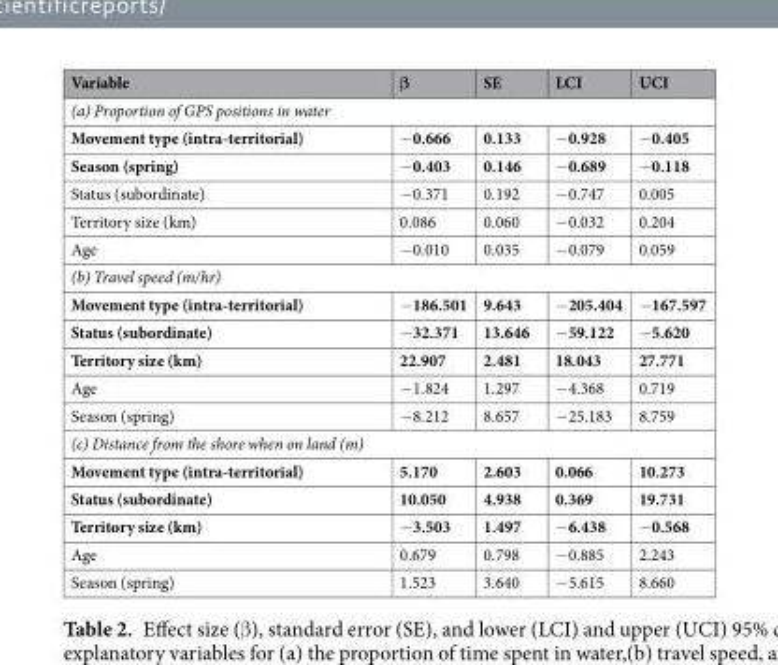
<table><thead><tr><td>Variable</td><td>β</td><td>SE</td><td>LCI</td><td>UCI</td></tr></thead><tbody><tr><td colspan="5">(a) Proportion of GPS positions in water</td></tr><tr><td>Movement type (intra-territorial)</td><td>−0.666</td><td>0.133</td><td>−0.928</td><td>−0.405</td></tr><tr><td>Season (spring)</td><td>−0.403</td><td>0.146</td><td>−0.689</td><td>−0.118</td></tr><tr><td>Status (subordinate)</td><td>−0.371</td><td>0.192</td><td>−0.747</td><td>0.005</td></tr><tr><td>Territory size (km)</td><td>0.086</td><td>0.060</td><td>−0.032</td><td>0.204</td></tr><tr><td>Age</td><td>−0.010</td><td>0.035</td><td>−0.079</td><td>0.059</td></tr><tr><td colspan="5">(b) Travel speed (m/hr)</td></tr><tr><td>Movement type (intra-territorial)</td><td>−186.501</td><td>9.643</td><td>−205.404</td><td>−167.597</td></tr><tr><td>Status (subordinate)</td><td>−32.371</td><td>13.646</td><td>−59.122</td><td>−5.620</td></tr><tr><td>Territory size (km)</td><td>22.907</td><td>2.481</td><td>18.043</td><td>27.771</td></tr><tr><td>Age</td><td>−1.824</td><td>1.297</td><td>−4.368</td><td>0.719</td></tr><tr><td>Season (spring)</td><td>−8.212</td><td>8.657</td><td>−25.183</td><td>8.759</td></tr><tr><td colspan="5">(c) Distance from the shore when on land (m)</td></tr><tr><td>Movement type (intra-territorial)</td><td>5.170</td><td>2.603</td><td>0.066</td><td>10.273</td></tr><tr><td>Status (subordinate)</td><td>10.050</td><td>4.938</td><td>0.369</td><td>19.731</td></tr><tr><td>Territory size (km)</td><td>−3.503</td><td>1.497</td><td>−6.438</td><td>−0.568</td></tr><tr><td>Age</td><td>0.679</td><td>0.798</td><td>−0.885</td><td>2.243</td></tr><tr><td>Season (spring)</td><td>1.523</td><td>3.640</td><td>−5.615</td><td>8.660</td></tr></tbody></table>